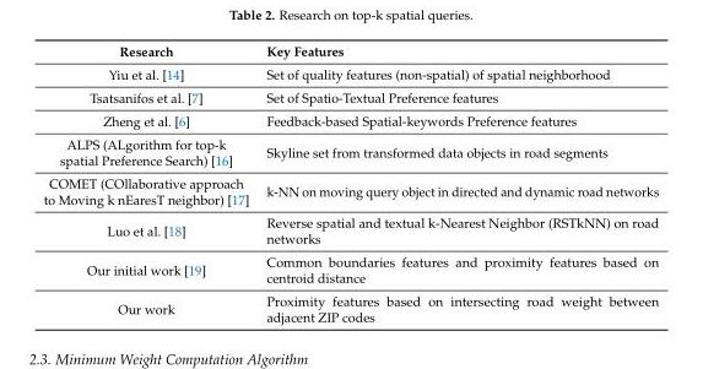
<table><thead><tr><td>Research</td><td>Key Features</td></tr></thead><tbody><tr><td>Yiu et al. [14]</td><td>Set of quality features (non-spatial) of spatial neighborhood</td></tr><tr><td>Tsatsanifos et al. [7]</td><td>Set of Spatio-Textual Preference features</td></tr><tr><td>Zheng et al. [6]</td><td>Feedback-based Spatial-keywords Preference features</td></tr><tr><td>ALPS (ALgorithm for top-k spatial Preference Search) [16]</td><td>Skyline set from transformed data objects in road segments</td></tr><tr><td>COMET (COllaborative approach to Moving k nEaresT neighbor) [17]</td><td>k-NN on moving query object in directed and dynamic road networks</td></tr><tr><td>Luo et al. [18]</td><td>Reverse spatial and textual k-Nearest Neighbor (RSTkNN) on road networks</td></tr><tr><td>Our initial work [19]</td><td>Common boundaries features and proximity features based on centroid distance</td></tr><tr><td>Our work</td><td>Proximity features based on intersecting road weight between adjacent ZIP codes</td></tr></tbody></table>